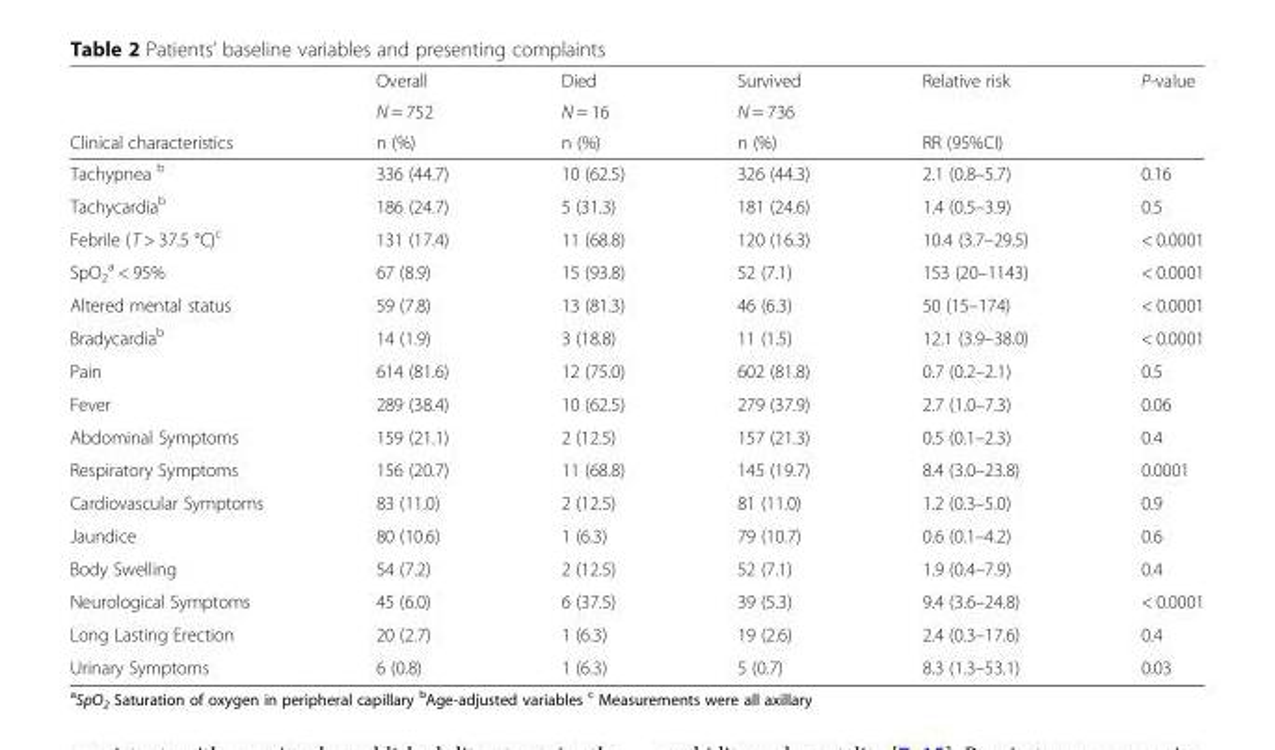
<table><thead><tr><td rowspan="3">Clinical characteristics</td><td rowspan="3">Overall N = 752 n (%)</td><td rowspan="3">Died N = 16 n (%)</td><td rowspan="3">Survived N = 736 n (%)</td><td rowspan="3">Relative risk RR (95%CI)</td><td rowspan="3">P-value</td></tr><tr></tr><tr></tr></thead><tbody><tr><td>Tachypnea <sup>b</sup></td><td>336 (44.7)</td><td>10 (62.5)</td><td>326 (44.3)</td><td>2.1 (0.8–5.7)</td><td>0.16</td></tr><tr><td>Tachycardia<sup>b</sup></td><td>186 (24.7)</td><td>5 (31.3)</td><td>181 (24.6)</td><td>1.4 (0.5–3.9)</td><td>0.5</td></tr><tr><td>Febrile (T &gt; 37.5 °C)<sup>c</sup></td><td>131 (17.4)</td><td>11 (68.8)</td><td>120 (16.3)</td><td>10.4 (3.7–29.5)</td><td>&lt; 0.0001</td></tr><tr><td>SpO<sub>2</sub> <sup>a</sup> &lt; 95%</td><td>67 (8.9)</td><td>15 (93.8)</td><td>52 (7.1)</td><td>153 (20–1143)</td><td>&lt; 0.0001</td></tr><tr><td>Altered mental status</td><td>59 (7.8)</td><td>13 (81.3)</td><td>46 (6.3)</td><td>50 (15–174)</td><td>&lt; 0.0001</td></tr><tr><td>Bradycardia<sup>b</sup></td><td>14 (1.9)</td><td>3 (18.8)</td><td>11 (1.5)</td><td>12.1 (3.9–38.0)</td><td>&lt; 0.0001</td></tr><tr><td>Pain</td><td>614 (81.6)</td><td>12 (75.0)</td><td>602 (81.8)</td><td>0.7 (0.2–2.1)</td><td>0.5</td></tr><tr><td>Fever</td><td>289 (38.4)</td><td>10 (62.5)</td><td>279 (37.9)</td><td>2.7 (1.0–7.3)</td><td>0.06</td></tr><tr><td>Abdominal Symptoms</td><td>159 (21.1)</td><td>2 (12.5)</td><td>157 (21.3)</td><td>0.5 (0.1–2.3)</td><td>0.4</td></tr><tr><td>Respiratory Symptoms</td><td>156 (20.7)</td><td>11 (68.8)</td><td>145 (19.7)</td><td>8.4 (3.0–23.8)</td><td>0.0001</td></tr><tr><td>Cardiovascular Symptoms</td><td>83 (11.0)</td><td>2 (12.5)</td><td>81 (11.0)</td><td>1.2 (0.3–5.0)</td><td>0.9</td></tr><tr><td>Jaundice</td><td>80 (10.6)</td><td>1 (6.3)</td><td>79 (10.7)</td><td>0.6 (0.1–4.2)</td><td>0.6</td></tr><tr><td>Body Swelling</td><td>54 (7.2)</td><td>2 (12.5)</td><td>52 (7.1)</td><td>1.9 (0.4–7.9)</td><td>0.4</td></tr><tr><td>Neurological Symptoms</td><td>45 (6.0)</td><td>6 (37.5)</td><td>39 (5.3)</td><td>9.4 (3.6–24.8)</td><td>&lt; 0.0001</td></tr><tr><td>Long Lasting Erection</td><td>20 (2.7)</td><td>1 (6.3)</td><td>19 (2.6)</td><td>2.4 (0.3–17.6)</td><td>0.4</td></tr><tr><td>Urinary Symptoms</td><td>6 (0.8)</td><td>1 (6.3)</td><td>5 (0.7)</td><td>8.3 (1.3–53.1)</td><td>0.03</td></tr></tbody></table>